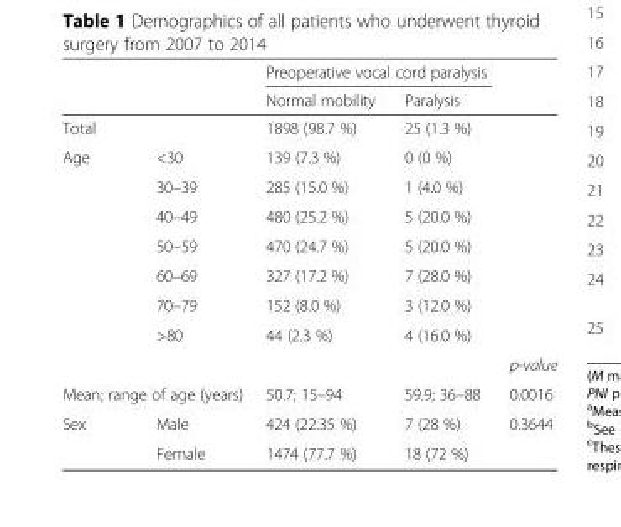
<table><thead><tr><td rowspan="2"></td><td rowspan="2"></td><td colspan="2">Preoperative vocal cord paralysis</td><td rowspan="2"></td></tr><tr><td>Normal mobility</td><td>Paralysis</td></tr></thead><tbody><tr><td>Total</td><td></td><td>1898 (98.7 %)</td><td>25 (1.3 %)</td><td></td></tr><tr><td rowspan="8">Age</td><td>&lt;30</td><td>139 (7.3 %)</td><td>0 (0 %)</td><td></td></tr><tr><td>30–39</td><td>285 (15.0 %)</td><td>1 (4.0 %)</td><td></td></tr><tr><td>40–49</td><td>480 (25.2 %)</td><td>5 (20.0 %)</td><td></td></tr><tr><td>50–59</td><td>470 (24.7 %)</td><td>5 (20.0 %)</td><td></td></tr><tr><td>60–69</td><td>327 (17.2 %)</td><td>7 (28.0 %)</td><td></td></tr><tr><td>70–79</td><td>152 (8.0 %)</td><td>3 (12.0 %)</td><td></td></tr><tr><td>&gt;80</td><td>44 (2.3 %)</td><td>4 (16.0 %)</td><td></td></tr><tr><td></td><td colspan="2"></td><td>p-value</td></tr><tr><td colspan="2">Mean; range of age (years)</td><td>50.7; 15–94</td><td>59.9; 36–88</td><td>0.0016</td></tr><tr><td rowspan="2">Sex</td><td>Male</td><td>424 (22.35 %)</td><td>7 (28 %)</td><td rowspan="2">0.3644</td></tr><tr><td>Female</td><td>1474 (77.7 %)</td><td>18 (72 %)</td></tr></tbody></table>